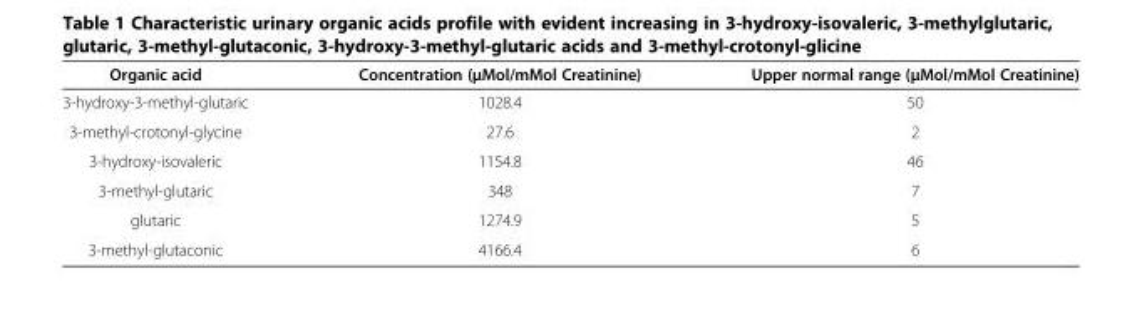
<table><thead><tr><td>Organic acid</td><td>Concentration (μMol/mMol Creatinine)</td><td>Upper normal range (μMol/mMol Creatinine)</td></tr></thead><tbody><tr><td>3-hydroxy-3-methyl-glutaric</td><td>1028.4</td><td>50</td></tr><tr><td>3-methyl-crotonyl-glycine</td><td>27.6</td><td>2</td></tr><tr><td>3-hydroxy-isovaleric</td><td>1154.8</td><td>46</td></tr><tr><td>3-methyl-glutaric</td><td>348</td><td>7</td></tr><tr><td>glutaric</td><td>1274.9</td><td>5</td></tr><tr><td>3-methyl-glutaconic</td><td>4166.4</td><td>6</td></tr></tbody></table>